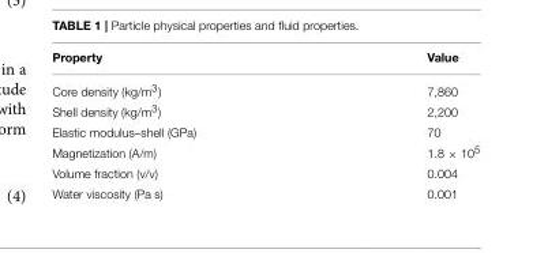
<table><thead><tr><td>Property</td><td>Value</td></tr></thead><tbody><tr><td>Core density (kg/m<sup>3</sup>)</td><td>7,860</td></tr><tr><td>Shell density (kg/m<sup>3</sup>)</td><td>2,200</td></tr><tr><td>Elastic modulus–shell (GPa)</td><td>70</td></tr><tr><td>Magnetization (A/m)</td><td>1.8 × 10<sup>5</sup></td></tr><tr><td>Volume fraction (v/v)</td><td>0.004</td></tr><tr><td>Water viscosity (Pa s)</td><td>0.001</td></tr></tbody></table>